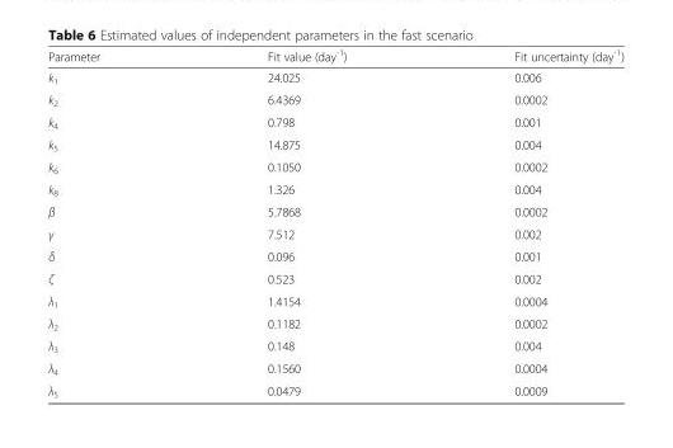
<table><thead><tr><td>Parameter</td><td>Fit value (day<sup>-1</sup>)</td><td>Fit uncertainty (day<sup>-1</sup>)</td></tr></thead><tbody><tr><td>k<sub>1</sub></td><td>24.025</td><td>0.006</td></tr><tr><td>k<sub>2</sub></td><td>6.4369</td><td>0.0002</td></tr><tr><td>k<sub>4</sub></td><td>0.798</td><td>0.001</td></tr><tr><td>k<sub>5</sub></td><td>14.875</td><td>0.004</td></tr><tr><td>k<sub>6</sub></td><td>0.1050</td><td>0.0002</td></tr><tr><td>k<sub>8</sub></td><td>1.326</td><td>0.004</td></tr><tr><td>β</td><td>5.7868</td><td>0.0002</td></tr><tr><td>γ</td><td>7.512</td><td>0.002</td></tr><tr><td>δ</td><td>0.096</td><td>0.001</td></tr><tr><td>ζ</td><td>0.523</td><td>0.002</td></tr><tr><td>λ<sub>1</sub></td><td>1.4154</td><td>0.0004</td></tr><tr><td>λ<sub>2</sub></td><td>0.1182</td><td>0.0002</td></tr><tr><td>λ<sub>3</sub></td><td>0.148</td><td>0.004</td></tr><tr><td>λ<sub>4</sub></td><td>0.1560</td><td>0.0004</td></tr><tr><td>λ<sub>5</sub></td><td>0.0479</td><td>0.0009</td></tr></tbody></table>